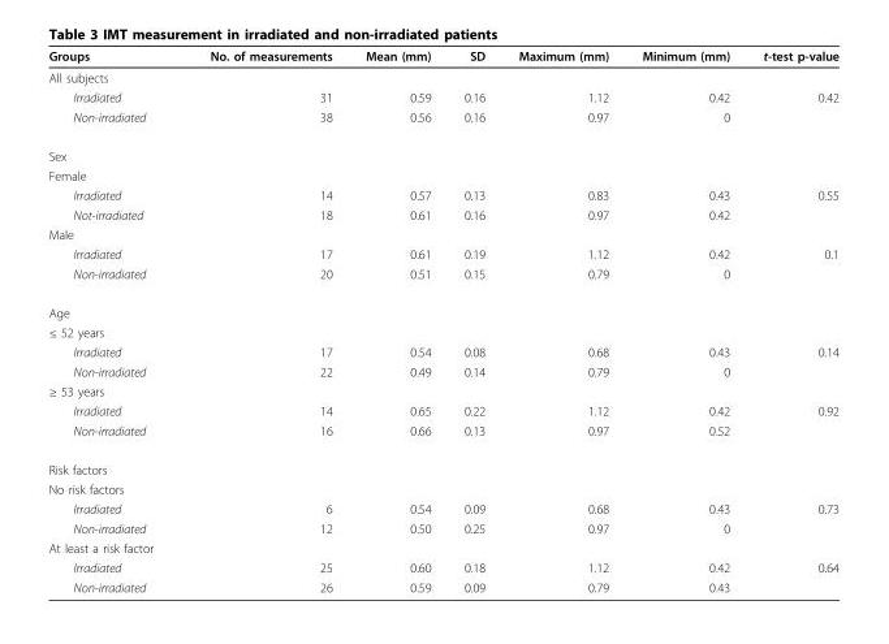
<table><thead><tr><td>Groups</td><td>No. of measurements</td><td>Mean (mm)</td><td>SD</td><td>Maximum (mm)</td><td>Minimum (mm)</td><td>t-test p-value</td></tr></thead><tbody><tr><td colspan="7">All subjects</td></tr><tr><td>Irradiated</td><td>31</td><td>0.59</td><td>0.16</td><td>1.12</td><td>0.42</td><td>0.42</td></tr><tr><td>Non-irradiated</td><td>38</td><td>0.56</td><td>0.16</td><td>0.97</td><td>0</td><td></td></tr><tr><td colspan="7">Sex</td></tr><tr><td colspan="7">Female</td></tr><tr><td>Irradiated</td><td>14</td><td>0.57</td><td>0.13</td><td>0.83</td><td>0.43</td><td>0.55</td></tr><tr><td>Not-irradiated</td><td>18</td><td>0.61</td><td>0.16</td><td>0.97</td><td>0.42</td><td></td></tr><tr><td colspan="7">Male</td></tr><tr><td>Irradiated</td><td>17</td><td>0.61</td><td>0.19</td><td>1.12</td><td>0.42</td><td>0.1</td></tr><tr><td>Non-irradiated</td><td>20</td><td>0.51</td><td>0.15</td><td>0.79</td><td>0</td><td></td></tr><tr><td colspan="7">Age</td></tr><tr><td colspan="7">≤ 52 years</td></tr><tr><td>Irradiated</td><td>17</td><td>0.54</td><td>0.08</td><td>0.68</td><td>0.43</td><td>0.14</td></tr><tr><td>Non-irradiated</td><td>22</td><td>0.49</td><td>0.14</td><td>0.79</td><td>0</td><td></td></tr><tr><td colspan="7">≥ 53 years</td></tr><tr><td>Irradiated</td><td>14</td><td>0.65</td><td>0.22</td><td>1.12</td><td>0.42</td><td>0.92</td></tr><tr><td>Non-irradiated</td><td>16</td><td>0.66</td><td>0.13</td><td>0.97</td><td>0.52</td><td></td></tr><tr><td colspan="7">Risk factors</td></tr><tr><td colspan="7">No risk factors</td></tr><tr><td>Irradiated</td><td>6</td><td>0.54</td><td>0.09</td><td>0.68</td><td>0.43</td><td>0.73</td></tr><tr><td>Non-irradiated</td><td>12</td><td>0.50</td><td>0.25</td><td>0.97</td><td>0</td><td></td></tr><tr><td colspan="7">At least a risk factor</td></tr><tr><td>Irradiated</td><td>25</td><td>0.60</td><td>0.18</td><td>1.12</td><td>0.42</td><td>0.64</td></tr><tr><td>Non-irradiated</td><td>26</td><td>0.59</td><td>0.09</td><td>0.79</td><td>0.43</td><td></td></tr></tbody></table>